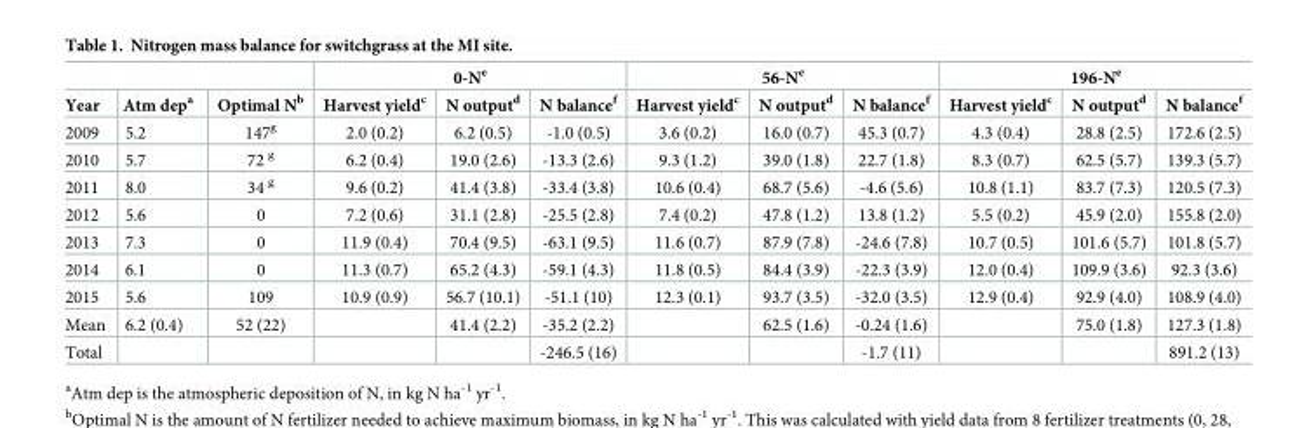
<table><thead><tr><td rowspan="2">Year</td><td rowspan="2">Atm dep<sup>a</sup></td><td rowspan="2">Optimal N<sup>b</sup></td><td colspan="3">0-N<sup>e</sup></td><td colspan="3">56-N<sup>e</sup></td><td colspan="3">196-N<sup>e</sup></td></tr><tr><td>Harvest yield<sup>c</sup></td><td>N output<sup>d</sup></td><td>N balance<sup>f</sup></td><td>Harvest yield<sup>c</sup></td><td>N output<sup>d</sup></td><td>N balance<sup>f</sup></td><td>Harvest yield<sup>c</sup></td><td>N output<sup>d</sup></td><td>N balance<sup>f</sup></td></tr></thead><tbody><tr><td>2009</td><td>5.2</td><td>147<sup>g</sup></td><td>2.0 (0.2)</td><td>6.2 (0.5)</td><td>-1.0 (0.5)</td><td>3.6 (0.2)</td><td>16.0 (0.7)</td><td>45.3 (0.7)</td><td>4.3 (0.4)</td><td>28.8 (2.5)</td><td>172.6 (2.5)</td></tr><tr><td>2010</td><td>5.7</td><td>72 <sup>g</sup></td><td>6.2 (0.4)</td><td>19.0 (2.6)</td><td>-13.3 (2.6)</td><td>9.3 (1.2)</td><td>39.0 (1.8)</td><td>22.7 (1.8)</td><td>8.3 (0.7)</td><td>62.5 (5.7)</td><td>139.3 (5.7)</td></tr><tr><td>2011</td><td>8.0</td><td>34 <sup>g</sup></td><td>9.6 (0.2)</td><td>41.4 (3.8)</td><td>-33.4 (3.8)</td><td>10.6 (0.4)</td><td>68.7 (5.6)</td><td>-4.6 (5.6)</td><td>10.8 (1.1)</td><td>83.7 (7.3)</td><td>120.5 (7.3)</td></tr><tr><td>2012</td><td>5.6</td><td>0</td><td>7.2 (0.6)</td><td>31.1 (2.8)</td><td>-25.5 (2.8)</td><td>7.4 (0.2)</td><td>47.8 (1.2)</td><td>13.8 (1.2)</td><td>5.5 (0.2)</td><td>45.9 (2.0)</td><td>155.8 (2.0)</td></tr><tr><td>2013</td><td>7.3</td><td>0</td><td>11.9 (0.4)</td><td>70.4 (9.5)</td><td>-63.1 (9.5)</td><td>11.6 (0.7)</td><td>87.9 (7.8)</td><td>-24.6 (7.8)</td><td>10.7 (0.5)</td><td>101.6 (5.7)</td><td>101.8 (5.7)</td></tr><tr><td>2014</td><td>6.1</td><td>0</td><td>11.3 (0.7)</td><td>65.2 (4.3)</td><td>-59.1 (4.3)</td><td>11.8 (0.5)</td><td>84.4 (3.9)</td><td>-22.3 (3.9)</td><td>12.0 (0.4)</td><td>109.9 (3.6)</td><td>92.3 (3.6)</td></tr><tr><td>2015</td><td>5.6</td><td>109</td><td>10.9 (0.9)</td><td>56.7 (10.1)</td><td>-51.1 (10)</td><td>12.3 (0.1)</td><td>93.7 (3.5)</td><td>-32.0 (3.5)</td><td>12.9 (0.4)</td><td>92.9 (4.0)</td><td>108.9 (4.0)</td></tr><tr><td>Mean</td><td>6.2 (0.4)</td><td>52 (22)</td><td></td><td>41.4 (2.2)</td><td>-35.2 (2.2)</td><td></td><td>62.5 (1.6)</td><td>-0.24 (1.6)</td><td></td><td>75.0 (1.8)</td><td>127.3 (1.8)</td></tr><tr><td>Total</td><td></td><td></td><td></td><td></td><td>-246.5 (16)</td><td></td><td></td><td>-1.7 (11)</td><td></td><td></td><td>891.2 (13)</td></tr></tbody></table>